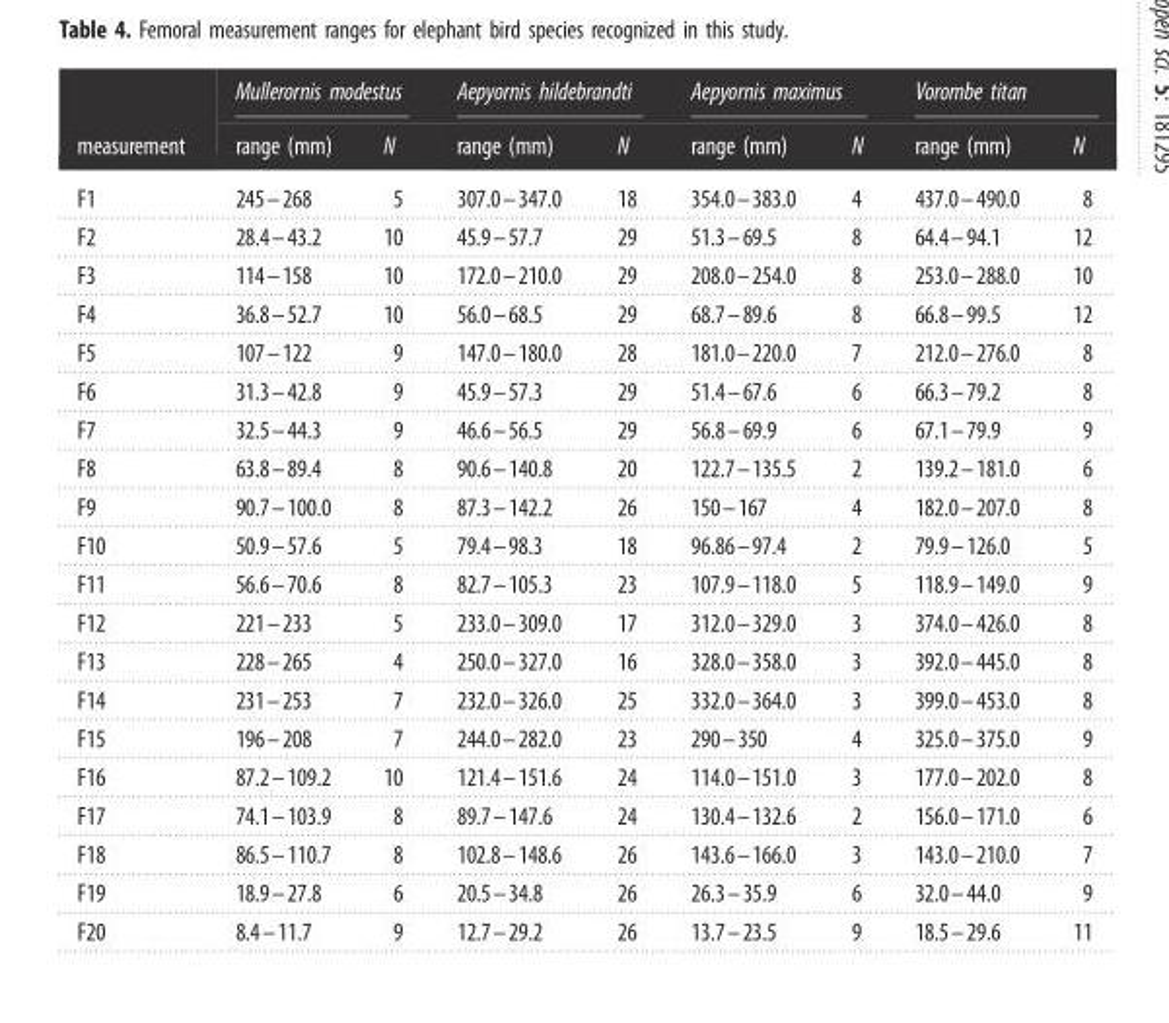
<table><thead><tr><td rowspan="2">measurement</td><td colspan="2">Mullerornis modestus</td><td colspan="2">Aepyornis hildebrandti</td><td colspan="2">Aepyornis maximus</td><td colspan="2">Vorombe titan</td></tr><tr><td>range (mm)</td><td>N</td><td>range (mm)</td><td>N</td><td>range (mm)</td><td>N</td><td>range (mm)</td><td>N</td></tr></thead><tbody><tr><td>F1</td><td>245–268</td><td>5</td><td>307.0–347.0</td><td>18</td><td>354.0–383.0</td><td>4</td><td>437.0–490.0</td><td>8</td></tr><tr><td>F2</td><td>28.4–43.2</td><td>10</td><td>45.9–57.7</td><td>29</td><td>51.3–69.5</td><td>8</td><td>64.4–94.1</td><td>12</td></tr><tr><td>F3</td><td>114–158</td><td>10</td><td>172.0–210.0</td><td>29</td><td>208.0–254.0</td><td>8</td><td>253.0–288.0</td><td>10</td></tr><tr><td>F4</td><td>36.8–52.7</td><td>10</td><td>56.0–68.5</td><td>29</td><td>68.7–89.6</td><td>8</td><td>66.8–99.5</td><td>12</td></tr><tr><td>F5</td><td>107–122</td><td>9</td><td>147.0–180.0</td><td>28</td><td>181.0–220.0</td><td>7</td><td>212.0–276.0</td><td>8</td></tr><tr><td>F6</td><td>31.3–42.8</td><td>9</td><td>45.9–57.3</td><td>29</td><td>51.4–67.6</td><td>6</td><td>66.3–79.2</td><td>8</td></tr><tr><td>F7</td><td>32.5–44.3</td><td>9</td><td>46.6–56.5</td><td>29</td><td>56.8–69.9</td><td>6</td><td>67.1–79.9</td><td>9</td></tr><tr><td>F8</td><td>63.8–89.4</td><td>8</td><td>90.6–140.8</td><td>20</td><td>122.7–135.5</td><td>2</td><td>139.2–181.0</td><td>6</td></tr><tr><td>F9</td><td>90.7–100.0</td><td>8</td><td>87.3–142.2</td><td>26</td><td>150–167</td><td>4</td><td>182.0–207.0</td><td>8</td></tr><tr><td>F10</td><td>50.9–57.6</td><td>5</td><td>79.4–98.3</td><td>18</td><td>96.86–97.4</td><td>2</td><td>79.9–126.0</td><td>5</td></tr><tr><td>F11</td><td>56.6–70.6</td><td>8</td><td>82.7–105.3</td><td>23</td><td>107.9–118.0</td><td>5</td><td>118.9–149.0</td><td>9</td></tr><tr><td>F12</td><td>221–233</td><td>5</td><td>233.0–309.0</td><td>17</td><td>312.0–329.0</td><td>3</td><td>374.0–426.0</td><td>8</td></tr><tr><td>F13</td><td>228–265</td><td>4</td><td>250.0–327.0</td><td>16</td><td>328.0–358.0</td><td>3</td><td>392.0–445.0</td><td>8</td></tr><tr><td>F14</td><td>231–253</td><td>7</td><td>232.0–326.0</td><td>25</td><td>332.0–364.0</td><td>3</td><td>399.0–453.0</td><td>8</td></tr><tr><td>F15</td><td>196–208</td><td>7</td><td>244.0–282.0</td><td>23</td><td>290–350</td><td>4</td><td>325.0–375.0</td><td>9</td></tr><tr><td>F16</td><td>87.2–109.2</td><td>10</td><td>121.4–151.6</td><td>24</td><td>114.0–151.0</td><td>3</td><td>177.0–202.0</td><td>8</td></tr><tr><td>F17</td><td>74.1–103.9</td><td>8</td><td>89.7–147.6</td><td>24</td><td>130.4–132.6</td><td>2</td><td>156.0–171.0</td><td>6</td></tr><tr><td>F18</td><td>86.5–110.7</td><td>8</td><td>102.8–148.6</td><td>26</td><td>143.6–166.0</td><td>3</td><td>143.0–210.0</td><td>7</td></tr><tr><td>F19</td><td>18.9–27.8</td><td>6</td><td>20.5–34.8</td><td>26</td><td>26.3–35.9</td><td>6</td><td>32.0–44.0</td><td>9</td></tr><tr><td>F20</td><td>8.4–11.7</td><td>9</td><td>12.7–29.2</td><td>26</td><td>13.7–23.5</td><td>9</td><td>18.5–29.6</td><td>11</td></tr></tbody></table>